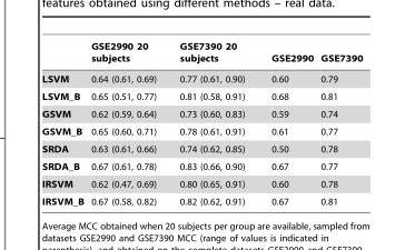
<table><thead><tr><td></td><td>GSE2990 20 subjects</td><td>GSE7390 20 subjects</td><td>GSE2990</td><td>GSE7390</td></tr></thead><tbody><tr><td>LSVM</td><td>0.64 (0.61, 0.69)</td><td>0.77 (0.61, 0.90)</td><td>0.60</td><td>0.79</td></tr><tr><td>LSVM_B</td><td>0.65 (0.51, 0.77)</td><td>0.81 (0.58, 0.91)</td><td>0.68</td><td>0.81</td></tr><tr><td>GSVM</td><td>0.62 (0.59, 0.64)</td><td>0.73 (0.60, 0.83)</td><td>0.59</td><td>0.74</td></tr><tr><td>GSVM_B</td><td>0.65 (0.60, 0.71)</td><td>0.78 (0.61, 0.91)</td><td>0.61</td><td>0.77</td></tr><tr><td>SRDA</td><td>0.63 (0.61, 0.66)</td><td>0.74 (0.62, 0.85)</td><td>0.50</td><td>0.78</td></tr><tr><td>SRDA_B</td><td>0.67 (0.61, 0.78)</td><td>0.83 (0.66, 0.90)</td><td>0.67</td><td>0.77</td></tr><tr><td>IRSVM</td><td>0.62 (0.47, 0.69)</td><td>0.80 (0.65, 0.91)</td><td>0.60</td><td>0.78</td></tr><tr><td>IRSVM_B</td><td>0.67 (0.58, 0.82)</td><td>0.82 (0.62, 0.91)</td><td>0.67</td><td>0.81</td></tr></tbody></table>